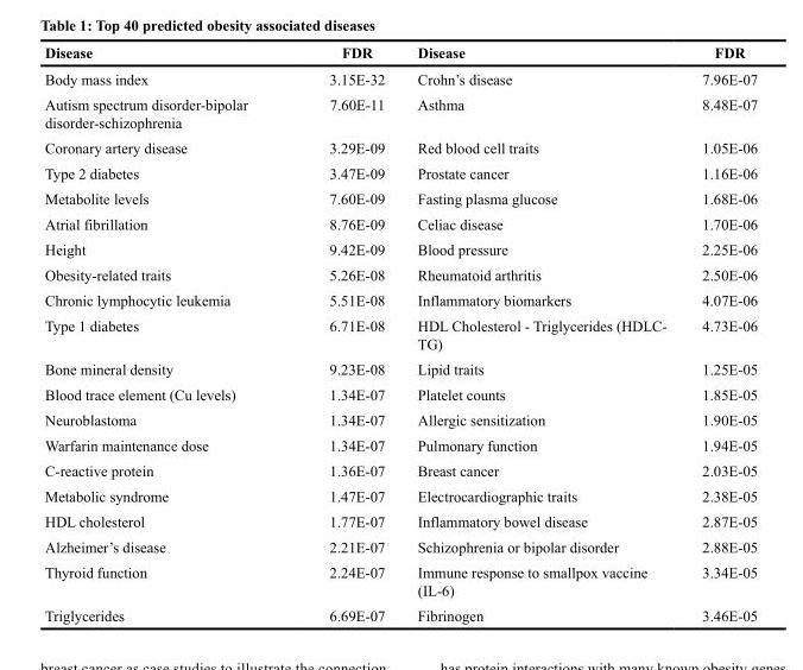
<table><thead><tr><td>Disease</td><td>FDR</td><td>Disease</td><td>FDR</td></tr></thead><tbody><tr><td>Body mass index</td><td>3.15E-32</td><td>Crohn’s disease</td><td>7.96E-07</td></tr><tr><td>Autism spectrum disorder-bipolar disorder-schizophrenia</td><td>7.60E-11</td><td>Asthma</td><td>8.48E-07</td></tr><tr><td>Coronary artery disease</td><td>3.29E-09</td><td>Red blood cell traits</td><td>1.05E-06</td></tr><tr><td>Type 2 diabetes</td><td>3.47E-09</td><td>Prostate cancer</td><td>1.16E-06</td></tr><tr><td>Metabolite levels</td><td>7.60E-09</td><td>Fasting plasma glucose</td><td>1.68E-06</td></tr><tr><td>Atrial fibrillation</td><td>8.76E-09</td><td>Celiac disease</td><td>1.70E-06</td></tr><tr><td>Height</td><td>9.42E-09</td><td>Blood pressure</td><td>2.25E-06</td></tr><tr><td>Obesity-related traits</td><td>5.26E-08</td><td>Rheumatoid arthritis</td><td>2.50E-06</td></tr><tr><td>Chronic lymphocytic leukemia</td><td>5.51E-08</td><td>Inflammatory biomarkers</td><td>4.07E-06</td></tr><tr><td>Type 1 diabetes</td><td>6.71E-08</td><td>HDL Cholesterol - Triglycerides (HDLC- TG)</td><td>4.73E-06</td></tr><tr><td>Bone mineral density</td><td>9.23E-08</td><td>Lipid traits</td><td>1.25E-05</td></tr><tr><td>Blood trace element (Cu levels)</td><td>1.34E-07</td><td>Platelet counts</td><td>1.85E-05</td></tr><tr><td>Neuroblastoma</td><td>1.34E-07</td><td>Allergic sensitization</td><td>1.90E-05</td></tr><tr><td>Warfarin maintenance dose</td><td>1.34E-07</td><td>Pulmonary function</td><td>1.94E-05</td></tr><tr><td>C-reactive protein</td><td>1.36E-07</td><td>Breast cancer</td><td>2.03E-05</td></tr><tr><td>Metabolic syndrome</td><td>1.47E-07</td><td>Electrocardiographic traits</td><td>2.38E-05</td></tr><tr><td>HDL cholesterol</td><td>1.77E-07</td><td>Inflammatory bowel disease</td><td>2.87E-05</td></tr><tr><td>Alzheimer’s disease</td><td>2.21E-07</td><td>Schizophrenia or bipolar disorder</td><td>2.88E-05</td></tr><tr><td>Thyroid function</td><td>2.24E-07</td><td>Immune response to smallpox vaccine (IL-6)</td><td>3.34E-05</td></tr><tr><td>Triglycerides</td><td>6.69E-07</td><td>Fibrinogen</td><td>3.46E-05</td></tr></tbody></table>